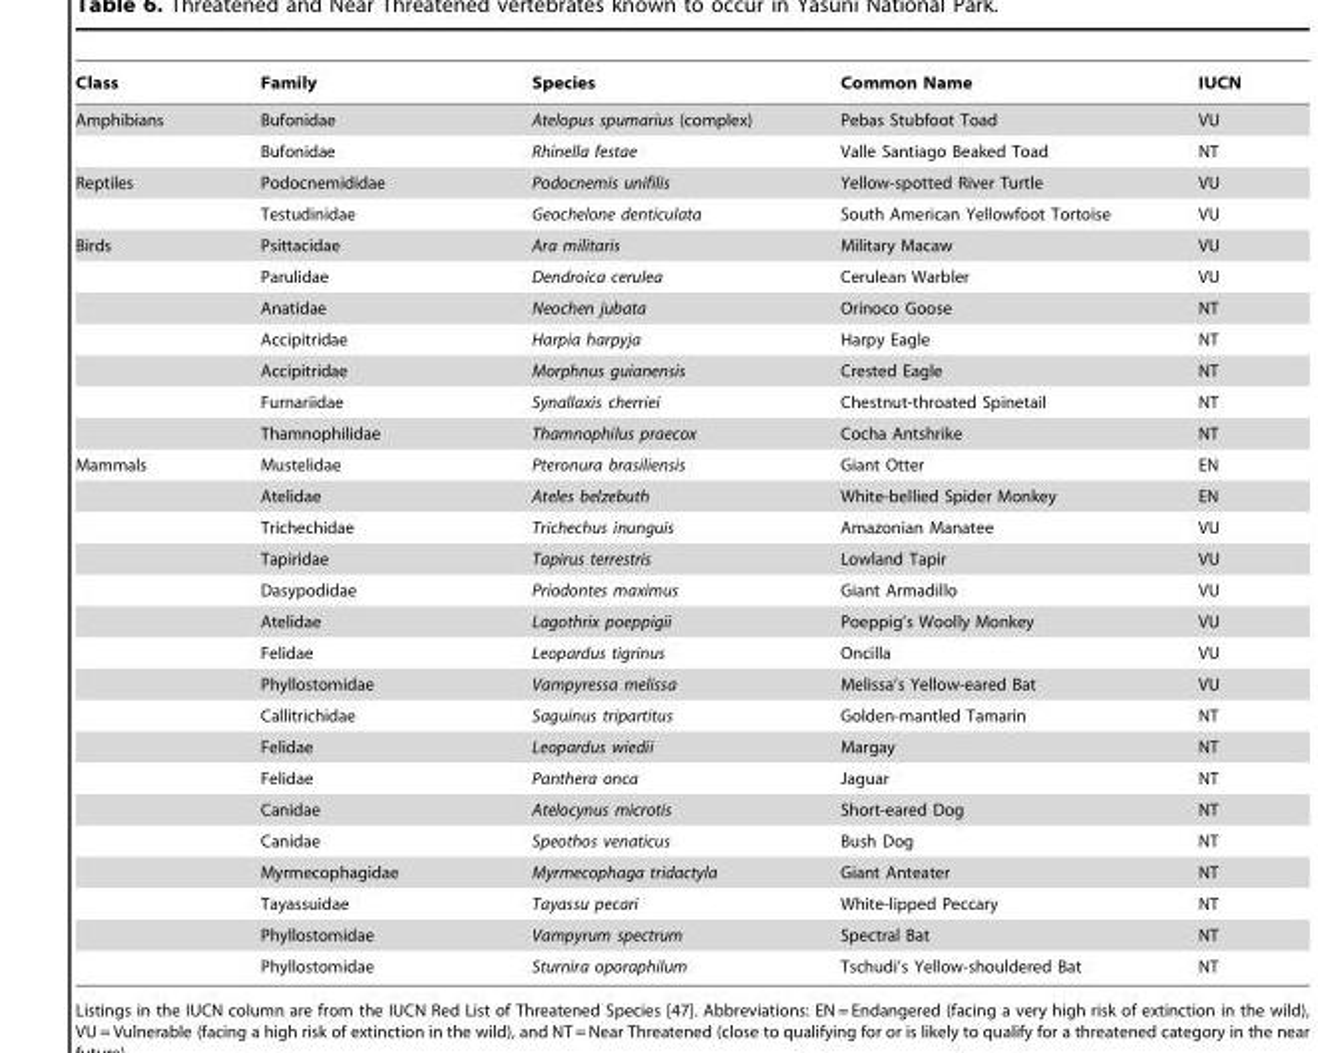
<table><thead><tr><td>Class</td><td>Family</td><td>Species</td><td>Common Name</td><td>IUCN</td></tr></thead><tbody><tr><td rowspan="2">Amphibians</td><td>Bufonidae</td><td>Atelopus spumarius (complex)</td><td>Pebas Stubfoot Toad</td><td>VU</td></tr><tr><td>Bufonidae</td><td>Rhinella festae</td><td>Valle Santiago Beaked Toad</td><td>NT</td></tr><tr><td rowspan="2">Reptiles</td><td>Podocnemididae</td><td>Podocnemis unifilis</td><td>Yellow-spotted River Turtle</td><td>VU</td></tr><tr><td>Testudinidae</td><td>Geochelone denticulata</td><td>South American Yellowfoot Tortoise</td><td>VU</td></tr><tr><td rowspan="7">Birds</td><td>Psittacidae</td><td>Ara militaris</td><td>Military Macaw</td><td>VU</td></tr><tr><td>Parulidae</td><td>Dendroica cerulea</td><td>Cerulean Warbler</td><td>VU</td></tr><tr><td>Anatidae</td><td>Neochen jubata</td><td>Orinoco Goose</td><td>NT</td></tr><tr><td>Accipitridae</td><td>Harpia harpyja</td><td>Harpy Eagle</td><td>NT</td></tr><tr><td>Accipitridae</td><td>Morphnus guianensis</td><td>Crested Eagle</td><td>NT</td></tr><tr><td>Furnariidae</td><td>Synallaxis cherriei</td><td>Chestnut-throated Spinetail</td><td>NT</td></tr><tr><td>Thamnophilidae</td><td>Thamnophilus praecox</td><td>Cocha Antshrike</td><td>NT</td></tr><tr><td rowspan="17">Mammals</td><td>Mustelidae</td><td>Pteronura brasiliensis</td><td>Giant Otter</td><td>EN</td></tr><tr><td>Atelidae</td><td>Ateles belzebuth</td><td>White-bellied Spider Monkey</td><td>EN</td></tr><tr><td>Trichechidae</td><td>Trichechus inunguis</td><td>Amazonian Manatee</td><td>VU</td></tr><tr><td>Tapiridae</td><td>Tapirus terrestris</td><td>Lowland Tapir</td><td>VU</td></tr><tr><td>Dasypodidae</td><td>Priodontes maximus</td><td>Giant Armadillo</td><td>VU</td></tr><tr><td>Atelidae</td><td>Lagothrix poeppigii</td><td>Poeppig’s Woolly Monkey</td><td>VU</td></tr><tr><td>Felidae</td><td>Leopardus tigrinus</td><td>Oncilla</td><td>VU</td></tr><tr><td>Phyllostomidae</td><td>Vampyressa melissa</td><td>Melissa’s Yellow-eared Bat</td><td>VU</td></tr><tr><td>Callitrichidae</td><td>Saguinus tripartitus</td><td>Golden-mantled Tamarin</td><td>NT</td></tr><tr><td>Felidae</td><td>Leopardus wiedii</td><td>Margay</td><td>NT</td></tr><tr><td>Felidae</td><td>Panthera onca</td><td>Jaguar</td><td>NT</td></tr><tr><td>Canidae</td><td>Atelocynus microtis</td><td>Short-eared Dog</td><td>NT</td></tr><tr><td>Canidae</td><td>Speothos venaticus</td><td>Bush Dog</td><td>NT</td></tr><tr><td>Myrmecophagidae</td><td>Myrmecophaga tridactyla</td><td>Giant Anteater</td><td>NT</td></tr><tr><td>Tayassuidae</td><td>Tayassu pecari</td><td>White-lipped Peccary</td><td>NT</td></tr><tr><td>Phyllostomidae</td><td>Vampyrum spectrum</td><td>Spectral Bat</td><td>NT</td></tr><tr><td>Phyllostomidae</td><td>Sturnira oporaphilum</td><td>Tschudi’s Yellow-shouldered Bat</td><td>NT</td></tr></tbody></table>